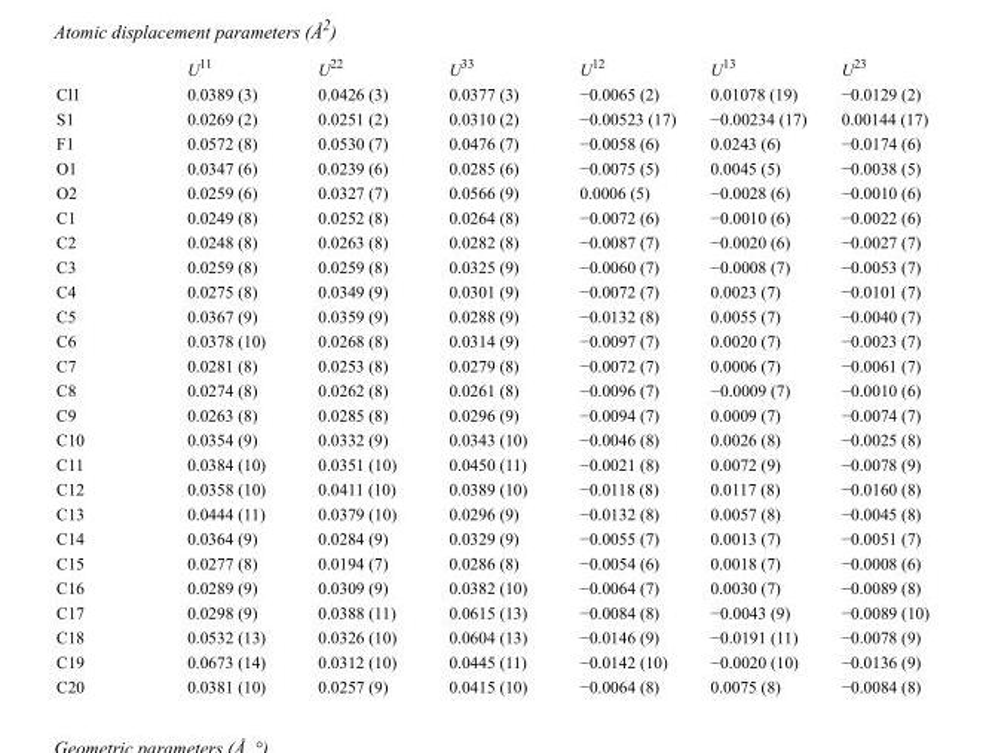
<table><thead><tr><td></td><td>U<sup>11</sup></td><td>U<sup>22</sup></td><td>U<sup>33</sup></td><td>U<sup>12</sup></td><td>U<sup>13</sup></td><td>U<sup>23</sup></td></tr></thead><tbody><tr><td>Cl1</td><td>0.0389 (3)</td><td>0.0426 (3)</td><td>0.0377 (3)</td><td>−0.0065 (2)</td><td>0.01078 (19)</td><td>−0.0129 (2)</td></tr><tr><td>S1</td><td>0.0269 (2)</td><td>0.0251 (2)</td><td>0.0310 (2)</td><td>−0.00523 (17)</td><td>−0.00234 (17)</td><td>0.00144 (17)</td></tr><tr><td>F1</td><td>0.0572 (8)</td><td>0.0530 (7)</td><td>0.0476 (7)</td><td>−0.0058 (6)</td><td>0.0243 (6)</td><td>−0.0174 (6)</td></tr><tr><td>O1</td><td>0.0347 (6)</td><td>0.0239 (6)</td><td>0.0285 (6)</td><td>−0.0075 (5)</td><td>0.0045 (5)</td><td>−0.0038 (5)</td></tr><tr><td>O2</td><td>0.0259 (6)</td><td>0.0327 (7)</td><td>0.0566 (9)</td><td>0.0006 (5)</td><td>−0.0028 (6)</td><td>−0.0010 (6)</td></tr><tr><td>C1</td><td>0.0249 (8)</td><td>0.0252 (8)</td><td>0.0264 (8)</td><td>−0.0072 (6)</td><td>−0.0010 (6)</td><td>−0.0022 (6)</td></tr><tr><td>C2</td><td>0.0248 (8)</td><td>0.0263 (8)</td><td>0.0282 (8)</td><td>−0.0087 (7)</td><td>−0.0020 (6)</td><td>−0.0027 (7)</td></tr><tr><td>C3</td><td>0.0259 (8)</td><td>0.0259 (8)</td><td>0.0325 (9)</td><td>−0.0060 (7)</td><td>−0.0008 (7)</td><td>−0.0053 (7)</td></tr><tr><td>C4</td><td>0.0275 (8)</td><td>0.0349 (9)</td><td>0.0301 (9)</td><td>−0.0072 (7)</td><td>0.0023 (7)</td><td>−0.0101 (7)</td></tr><tr><td>C5</td><td>0.0367 (9)</td><td>0.0359 (9)</td><td>0.0288 (9)</td><td>−0.0132 (8)</td><td>0.0055 (7)</td><td>−0.0040 (7)</td></tr><tr><td>C6</td><td>0.0378 (10)</td><td>0.0268 (8)</td><td>0.0314 (9)</td><td>−0.0097 (7)</td><td>0.0020 (7)</td><td>−0.0023 (7)</td></tr><tr><td>C7</td><td>0.0281 (8)</td><td>0.0253 (8)</td><td>0.0279 (8)</td><td>−0.0072 (7)</td><td>0.0006 (7)</td><td>−0.0061 (7)</td></tr><tr><td>C8</td><td>0.0274 (8)</td><td>0.0262 (8)</td><td>0.0261 (8)</td><td>−0.0096 (7)</td><td>−0.0009 (7)</td><td>−0.0010 (6)</td></tr><tr><td>C9</td><td>0.0263 (8)</td><td>0.0285 (8)</td><td>0.0296 (9)</td><td>−0.0094 (7)</td><td>0.0009 (7)</td><td>−0.0074 (7)</td></tr><tr><td>C10</td><td>0.0354 (9)</td><td>0.0332 (9)</td><td>0.0343 (10)</td><td>−0.0046 (8)</td><td>0.0026 (8)</td><td>−0.0025 (8)</td></tr><tr><td>C11</td><td>0.0384 (10)</td><td>0.0351 (10)</td><td>0.0450 (11)</td><td>−0.0021 (8)</td><td>0.0072 (9)</td><td>−0.0078 (9)</td></tr><tr><td>C12</td><td>0.0358 (10)</td><td>0.0411 (10)</td><td>0.0389 (10)</td><td>−0.0118 (8)</td><td>0.0117 (8)</td><td>−0.0160 (8)</td></tr><tr><td>C13</td><td>0.0444 (11)</td><td>0.0379 (10)</td><td>0.0296 (9)</td><td>−0.0132 (8)</td><td>0.0057 (8)</td><td>−0.0045 (8)</td></tr><tr><td>C14</td><td>0.0364 (9)</td><td>0.0284 (9)</td><td>0.0329 (9)</td><td>−0.0055 (7)</td><td>0.0013 (7)</td><td>−0.0051 (7)</td></tr><tr><td>C15</td><td>0.0277 (8)</td><td>0.0194 (7)</td><td>0.0286 (8)</td><td>−0.0054 (6)</td><td>0.0018 (7)</td><td>−0.0008 (6)</td></tr><tr><td>C16</td><td>0.0289 (9)</td><td>0.0309 (9)</td><td>0.0382 (10)</td><td>−0.0064 (7)</td><td>0.0030 (7)</td><td>−0.0089 (8)</td></tr><tr><td>C17</td><td>0.0298 (9)</td><td>0.0388 (11)</td><td>0.0615 (13)</td><td>−0.0084 (8)</td><td>−0.0043 (9)</td><td>−0.0089 (10)</td></tr><tr><td>C18</td><td>0.0532 (13)</td><td>0.0326 (10)</td><td>0.0604 (13)</td><td>−0.0146 (9)</td><td>−0.0191 (11)</td><td>−0.0078 (9)</td></tr><tr><td>C19</td><td>0.0673 (14)</td><td>0.0312 (10)</td><td>0.0445 (11)</td><td>−0.0142 (10)</td><td>−0.0020 (10)</td><td>−0.0136 (9)</td></tr><tr><td>C20</td><td>0.0381 (10)</td><td>0.0257 (9)</td><td>0.0415 (10)</td><td>−0.0064 (8)</td><td>0.0075 (8)</td><td>−0.0084 (8)</td></tr></tbody></table>